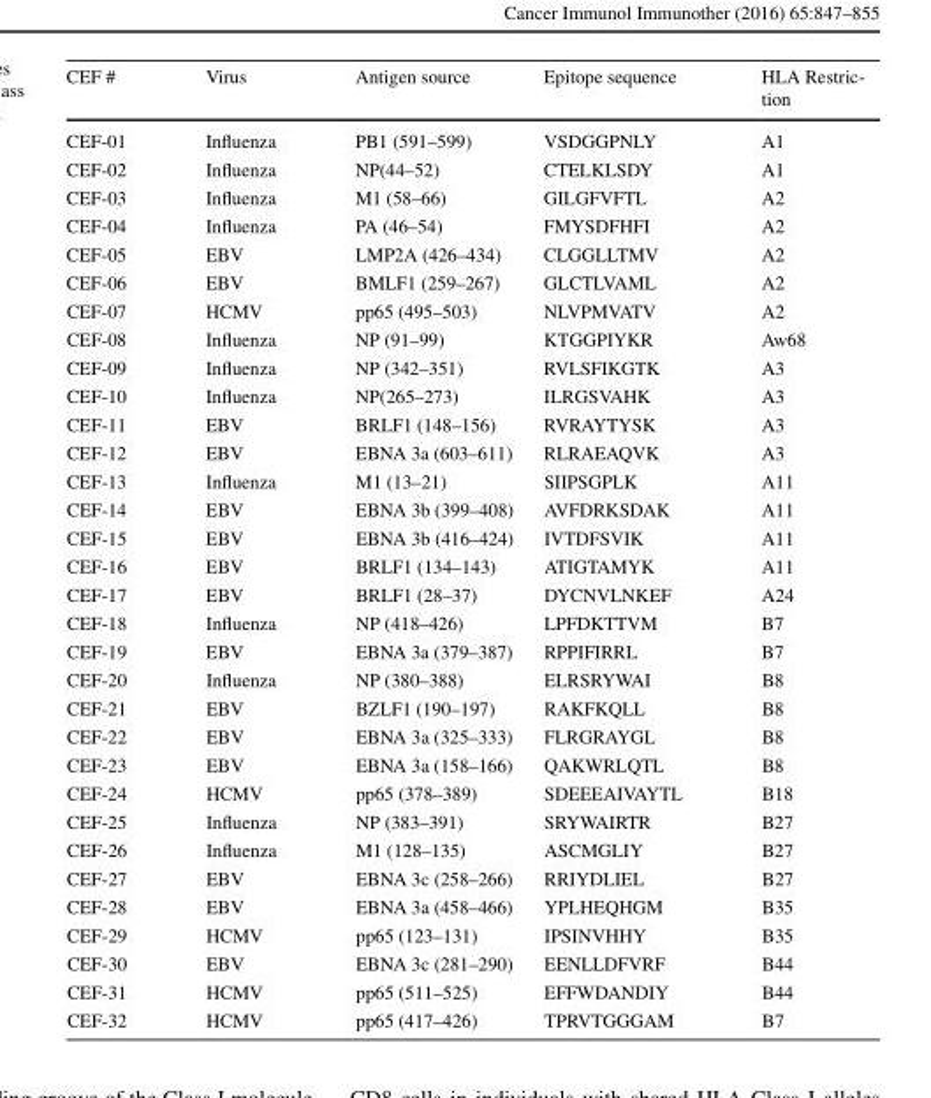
<table><thead><tr><td>CEF #</td><td>Virus</td><td>Antigen source</td><td>Epitope sequence</td><td>HLA Restric- tion</td></tr></thead><tbody><tr><td>CEF-01</td><td>Influenza</td><td>PB1 (591–599)</td><td>VSDGGPNLY</td><td>A1</td></tr><tr><td>CEF-02</td><td>Influenza</td><td>NP(44–52)</td><td>CTELKLSDY</td><td>A1</td></tr><tr><td>CEF-03</td><td>Influenza</td><td>M1 (58–66)</td><td>GILGFVFTL</td><td>A2</td></tr><tr><td>CEF-04</td><td>Influenza</td><td>PA (46–54)</td><td>FMYSDFHFI</td><td>A2</td></tr><tr><td>CEF-05</td><td>EBV</td><td>LMP2A (426–434)</td><td>CLGGLLTMV</td><td>A2</td></tr><tr><td>CEF-06</td><td>EBV</td><td>BMLF1 (259–267)</td><td>GLCTLVAML</td><td>A2</td></tr><tr><td>CEF-07</td><td>HCMV</td><td>pp65 (495–503)</td><td>NLVPMVATV</td><td>A2</td></tr><tr><td>CEF-08</td><td>Influenza</td><td>NP (91–99)</td><td>KTGGPIYKR</td><td>Aw68</td></tr><tr><td>CEF-09</td><td>Influenza</td><td>NP (342–351)</td><td>RVLSFIKGTK</td><td>A3</td></tr><tr><td>CEF-10</td><td>Influenza</td><td>NP(265–273)</td><td>ILRGSVAHK</td><td>A3</td></tr><tr><td>CEF-11</td><td>EBV</td><td>BRLF1 (148–156)</td><td>RVRAYTYSK</td><td>A3</td></tr><tr><td>CEF-12</td><td>EBV</td><td>EBNA 3a (603–611)</td><td>RLRAEAQVK</td><td>A3</td></tr><tr><td>CEF-13</td><td>Influenza</td><td>M1 (13–21)</td><td>SIIPSGPLK</td><td>A11</td></tr><tr><td>CEF-14</td><td>EBV</td><td>EBNA 3b (399–408)</td><td>AVFDRKSDAK</td><td>A11</td></tr><tr><td>CEF-15</td><td>EBV</td><td>EBNA 3b (416–424)</td><td>IVTDFSVIK</td><td>A11</td></tr><tr><td>CEF-16</td><td>EBV</td><td>BRLF1 (134–143)</td><td>ATIGTAMYK</td><td>A11</td></tr><tr><td>CEF-17</td><td>EBV</td><td>BRLF1 (28–37)</td><td>DYCNVLNKEF</td><td>A24</td></tr><tr><td>CEF-18</td><td>Influenza</td><td>NP (418–426)</td><td>LPFDKTTVM</td><td>B7</td></tr><tr><td>CEF-19</td><td>EBV</td><td>EBNA 3a (379–387)</td><td>RPPIFIRRL</td><td>B7</td></tr><tr><td>CEF-20</td><td>Influenza</td><td>NP (380–388)</td><td>ELRSRYWAI</td><td>B8</td></tr><tr><td>CEF-21</td><td>EBV</td><td>BZLF1 (190–197)</td><td>RAKFKQLL</td><td>B8</td></tr><tr><td>CEF-22</td><td>EBV</td><td>EBNA 3a (325–333)</td><td>FLRGRAYGL</td><td>B8</td></tr><tr><td>CEF-23</td><td>EBV</td><td>EBNA 3a (158–166)</td><td>QAKWRLQTL</td><td>B8</td></tr><tr><td>CEF-24</td><td>HCMV</td><td>pp65 (378–389)</td><td>SDEEEAIVAYTL</td><td>B18</td></tr><tr><td>CEF-25</td><td>Influenza</td><td>NP (383–391)</td><td>SRYWAIRTR</td><td>B27</td></tr><tr><td>CEF-26</td><td>Influenza</td><td>M1 (128–135)</td><td>ASCMGLIY</td><td>B27</td></tr><tr><td>CEF-27</td><td>EBV</td><td>EBNA 3c (258–266)</td><td>RRIYDLIEL</td><td>B27</td></tr><tr><td>CEF-28</td><td>EBV</td><td>EBNA 3a (458–466)</td><td>YPLHEQHGM</td><td>B35</td></tr><tr><td>CEF-29</td><td>HCMV</td><td>pp65 (123–131)</td><td>IPSINVHHY</td><td>B35</td></tr><tr><td>CEF-30</td><td>EBV</td><td>EBNA 3c (281–290)</td><td>EENLLDFVRF</td><td>B44</td></tr><tr><td>CEF-31</td><td>HCMV</td><td>pp65 (511–525)</td><td>EFFWDANDIY</td><td>B44</td></tr><tr><td>CEF-32</td><td>HCMV</td><td>pp65 (417–426)</td><td>TPRVTGGGAM</td><td>B7</td></tr></tbody></table>